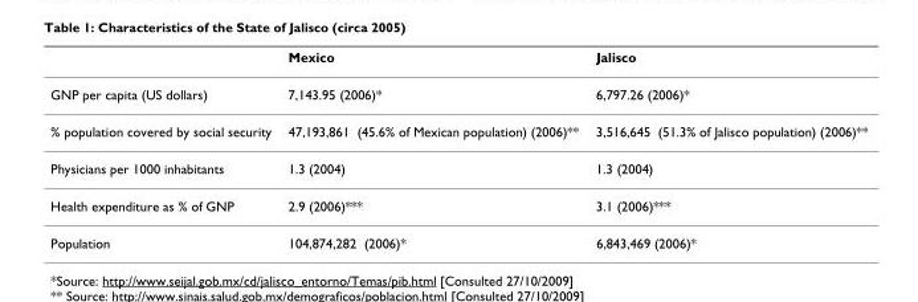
<table><thead><tr><td></td><td>Mexico</td><td>Jalisco</td></tr></thead><tbody><tr><td>GNP per capita (US dollars)</td><td>7,143.95 (2006)*</td><td>6,797.26 (2006)*</td></tr><tr><td>% population covered by social security</td><td>47,193,861 (45.6% of Mexican population) (2006)**</td><td>3,516,645 (51.3% of Jalisco population) (2006)**</td></tr><tr><td>Physicians per 1000 inhabitants</td><td>1.3 (2004)</td><td>1.3 (2004)</td></tr><tr><td>Health expenditure as % of GNP</td><td>2.9 (2006)***</td><td>3.1 (2006)***</td></tr><tr><td>Population</td><td>104,874,282 (2006)*</td><td>6,843,469 (2006)*</td></tr></tbody></table>